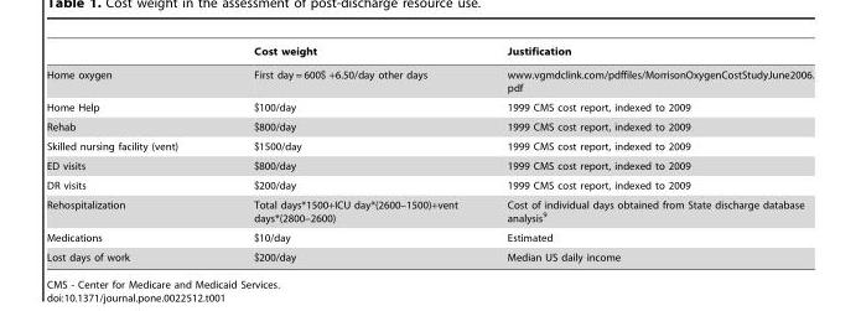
<table><thead><tr><td></td><td>Cost weight</td><td>Justification</td></tr></thead><tbody><tr><td>Home oxygen</td><td>First day = 600$ +6.50/day other days</td><td>www.vgmdclink.com/pdffiles/MorrisonOxygenCostStudyJune2006. pdf</td></tr><tr><td>Home Help</td><td>$100/day</td><td>1999 CMS cost report, indexed to 2009</td></tr><tr><td>Rehab</td><td>$800/day</td><td>1999 CMS cost report, indexed to 2009</td></tr><tr><td>Skilled nursing facility (vent)</td><td>$1500/day</td><td>1999 CMS cost report, indexed to 2009</td></tr><tr><td>ED visits</td><td>$800/day</td><td>1999 CMS cost report, indexed to 2009</td></tr><tr><td>DR visits</td><td>$200/day</td><td>1999 CMS cost report, indexed to 2009</td></tr><tr><td>Rehospitalization</td><td>Total days*1500+ICU day*(2600–1500)+vent days*(2800–2600)</td><td>Cost of individual days obtained from State discharge database analysis<sup>9</sup></td></tr><tr><td>Medications</td><td>$10/day</td><td>Estimated</td></tr><tr><td>Lost days of work</td><td>$200/day</td><td>Median US daily income</td></tr></tbody></table>